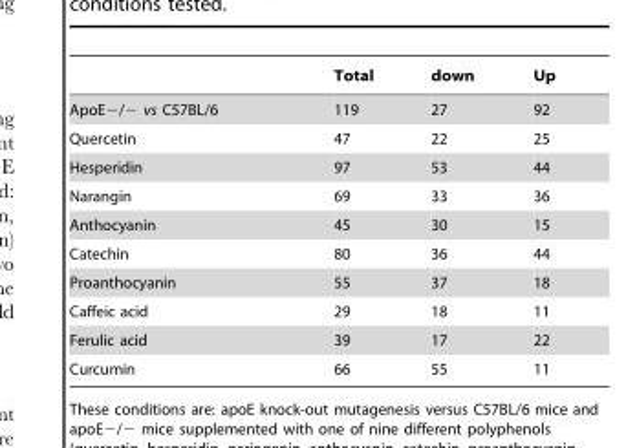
<table><thead><tr><td></td><td>Total</td><td>down</td><td>Up</td></tr></thead><tbody><tr><td>ApoE−/− vs C57BL/6</td><td>119</td><td>27</td><td>92</td></tr><tr><td>Quercetin</td><td>47</td><td>22</td><td>25</td></tr><tr><td>Hesperidin</td><td>97</td><td>53</td><td>44</td></tr><tr><td>Narangin</td><td>69</td><td>33</td><td>36</td></tr><tr><td>Anthocyanin</td><td>45</td><td>30</td><td>15</td></tr><tr><td>Catechin</td><td>80</td><td>36</td><td>44</td></tr><tr><td>Proanthocyanin</td><td>55</td><td>37</td><td>18</td></tr><tr><td>Caffeic acid</td><td>29</td><td>18</td><td>11</td></tr><tr><td>Ferulic acid</td><td>39</td><td>17</td><td>22</td></tr><tr><td>Curcumin</td><td>66</td><td>55</td><td>11</td></tr></tbody></table>